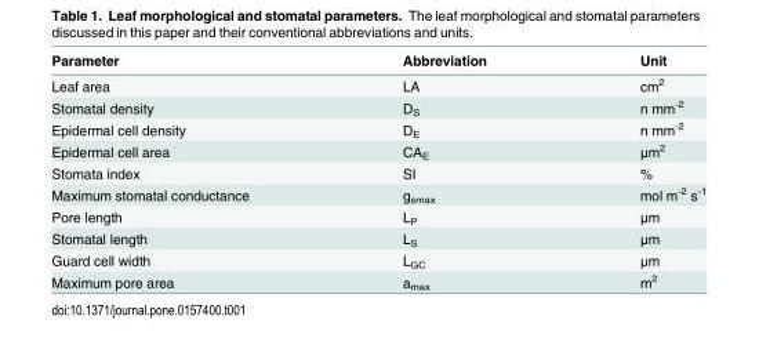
<table><thead><tr><td>Parameter</td><td>Abbreviation</td><td>Unit</td></tr></thead><tbody><tr><td>Leaf area</td><td>LA</td><td>cm<sup>2</sup></td></tr><tr><td>Stomatal density</td><td>D<sub>S</sub></td><td>n mm<sup>-2</sup></td></tr><tr><td>Epidermal cell density</td><td>D<sub>E</sub></td><td>n mm<sup>-2</sup></td></tr><tr><td>Epidermal cell area</td><td>CA<sub>E</sub></td><td>μm<sup>2</sup></td></tr><tr><td>Stomata index</td><td>SI</td><td>%</td></tr><tr><td>Maximum stomatal conductance</td><td>g<sub>smax</sub></td><td>mol m<sup>-2</sup> s<sup>-1</sup></td></tr><tr><td>Pore length</td><td>L<sub>P</sub></td><td>μm</td></tr><tr><td>Stomatal length</td><td>L<sub>S</sub></td><td>μm</td></tr><tr><td>Guard cell width</td><td>L<sub>GC</sub></td><td>μm</td></tr><tr><td>Maximum pore area</td><td>a<sub>max</sub></td><td>m<sup>2</sup></td></tr></tbody></table>